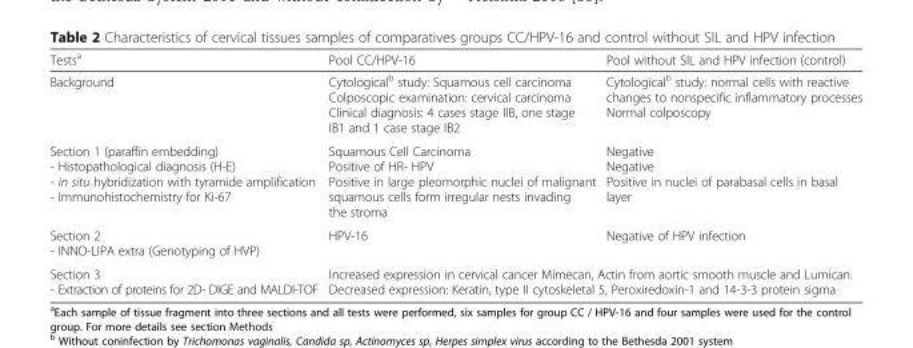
<table><thead><tr><td>Tests<sup>a</sup></td><td>Pool CC/HPV-16</td><td>Pool without SIL and HPV infection (control)</td></tr></thead><tbody><tr><td>Background</td><td>Cytological<sup>b</sup> study: Squamous cell carcinoma Colposcopic examination: cervical carcinoma Clinical diagnosis: 4 cases stage IIB, one stage IB1 and 1 case stage IB2</td><td>Cytological<sup>b</sup> study: normal cells with reactive changes to nonspecific inflammatory processes Normal colposcopy</td></tr><tr><td>Section 1 (paraffin embedding) - Histopathological diagnosis (H-E) - in situ hybridization with tyramide amplification - Immunohistochemistry for Ki-67</td><td>Squamous Cell Carcinoma Positive of HR- HPV Positive in large pleomorphic nuclei of malignant squamous cells form irregular nests invading the stroma</td><td>Negative Negative Positive in nuclei of parabasal cells in basal layer</td></tr><tr><td>Section 2 - INNO-LIPA extra (Genotyping of HVP)</td><td>HPV-16</td><td>Negative of HPV infection</td></tr><tr><td>Section 3 - Extraction of proteins for 2D- DIGE and MALDI-TOF</td><td colspan="2">Increased expression in cervical cancer Mimecan, Actin from aortic smooth muscle and Lumican. Decreased expression: Keratin, type II cytoskeletal 5, Peroxiredoxin-1 and 14-3-3 protein sigma</td></tr></tbody></table>